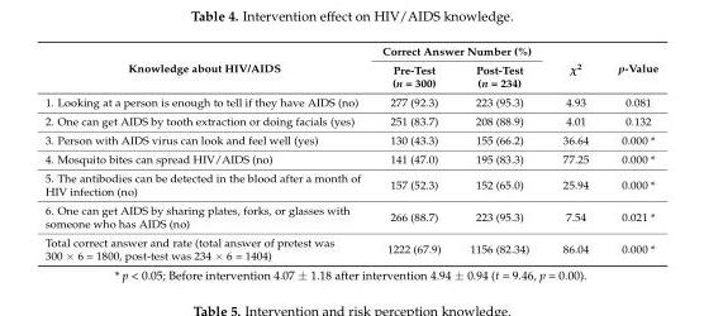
<table><thead><tr><td rowspan="2">Knowledge about HIV/AIDS</td><td colspan="2">Correct Answer Number (%)</td><td rowspan="2">χ<sup>2</sup></td><td rowspan="2">p-Value</td></tr><tr><td>Pre-Test (n = 300)</td><td>Post-Test (n = 234)</td></tr></thead><tbody><tr><td>1. Looking at a person is enough to tell if they have AIDS (no)</td><td>277 (92.3)</td><td>223 (95.3)</td><td>4.93</td><td>0.081</td></tr><tr><td>2. One can get AIDS by tooth extraction or doing facials (yes)</td><td>251 (83.7)</td><td>208 (88.9)</td><td>4.01</td><td>0.132</td></tr><tr><td>3. Person with AIDS virus can look and feel well (yes)</td><td>130 (43.3)</td><td>155 (66.2)</td><td>36.64</td><td>0.000 *</td></tr><tr><td>4. Mosquito bites can spread HIV/AIDS (no)</td><td>141 (47.0)</td><td>195 (83.3)</td><td>77.25</td><td>0.000 *</td></tr><tr><td>5. The antibodies can be detected in the blood after a month of HIV infection (no)</td><td>157 (52.3)</td><td>152 (65.0)</td><td>25.94</td><td>0.000 *</td></tr><tr><td>6. One can get AIDS by sharing plates, forks, or glasses with someone who has AIDS (no)</td><td>266 (88.7)</td><td>223 (95.3)</td><td>7.54</td><td>0.021 *</td></tr><tr><td>Total correct answer and rate (total answer of pretest was 300 × 6 = 1800, post-test was 234 × 6 = 1404)</td><td>1222 (67.9)</td><td>1156 (82.34)</td><td>86.04</td><td>0.000 *</td></tr></tbody></table>